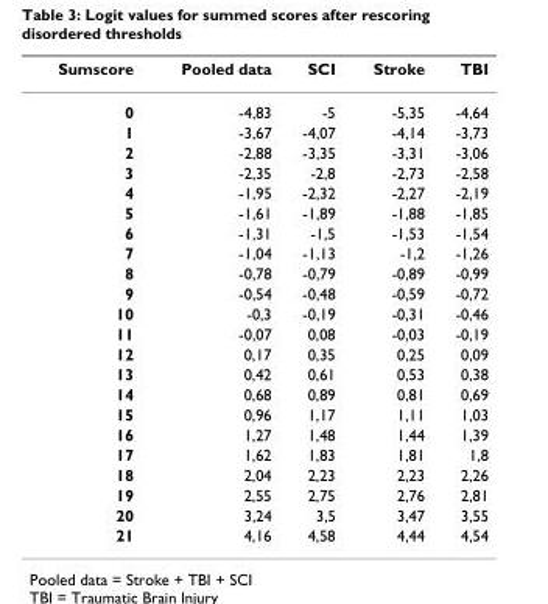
<table><thead><tr><td>Sumscore</td><td>Pooled data</td><td>SCI</td><td>Stroke</td><td>TBI</td></tr></thead><tbody><tr><td>0</td><td>-4,83</td><td>-5</td><td>-5,35</td><td>-4,64</td></tr><tr><td>1</td><td>-3,67</td><td>-4,07</td><td>-4,14</td><td>-3,73</td></tr><tr><td>2</td><td>-2,88</td><td>-3,35</td><td>-3,31</td><td>-3,06</td></tr><tr><td>3</td><td>-2,35</td><td>-2,8</td><td>-2,73</td><td>-2,58</td></tr><tr><td>4</td><td>-1,95</td><td>-2,32</td><td>-2,27</td><td>-2,19</td></tr><tr><td>5</td><td>-1,61</td><td>-1,89</td><td>-1,88</td><td>-1,85</td></tr><tr><td>6</td><td>-1,31</td><td>-1,5</td><td>-1,53</td><td>-1,54</td></tr><tr><td>7</td><td>-1,04</td><td>-1,13</td><td>-1,2</td><td>-1,26</td></tr><tr><td>8</td><td>-0,78</td><td>-0,79</td><td>-0,89</td><td>-0,99</td></tr><tr><td>9</td><td>-0,54</td><td>-0,48</td><td>-0,59</td><td>-0,72</td></tr><tr><td>10</td><td>-0,3</td><td>-0,19</td><td>-0,31</td><td>-0,46</td></tr><tr><td>11</td><td>-0,07</td><td>0,08</td><td>-0,03</td><td>-0,19</td></tr><tr><td>12</td><td>0,17</td><td>0,35</td><td>0,25</td><td>0,09</td></tr><tr><td>13</td><td>0,42</td><td>0,61</td><td>0,53</td><td>0,38</td></tr><tr><td>14</td><td>0,68</td><td>0,89</td><td>0,81</td><td>0,69</td></tr><tr><td>15</td><td>0,96</td><td>1,17</td><td>1,11</td><td>1,03</td></tr><tr><td>16</td><td>1,27</td><td>1,48</td><td>1,44</td><td>1,39</td></tr><tr><td>17</td><td>1,62</td><td>1,83</td><td>1,81</td><td>1,8</td></tr><tr><td>18</td><td>2,04</td><td>2,23</td><td>2,23</td><td>2,26</td></tr><tr><td>19</td><td>2,55</td><td>2,75</td><td>2,76</td><td>2,81</td></tr><tr><td>20</td><td>3,24</td><td>3,5</td><td>3,47</td><td>3,55</td></tr><tr><td>21</td><td>4,16</td><td>4,58</td><td>4,44</td><td>4,54</td></tr></tbody></table>